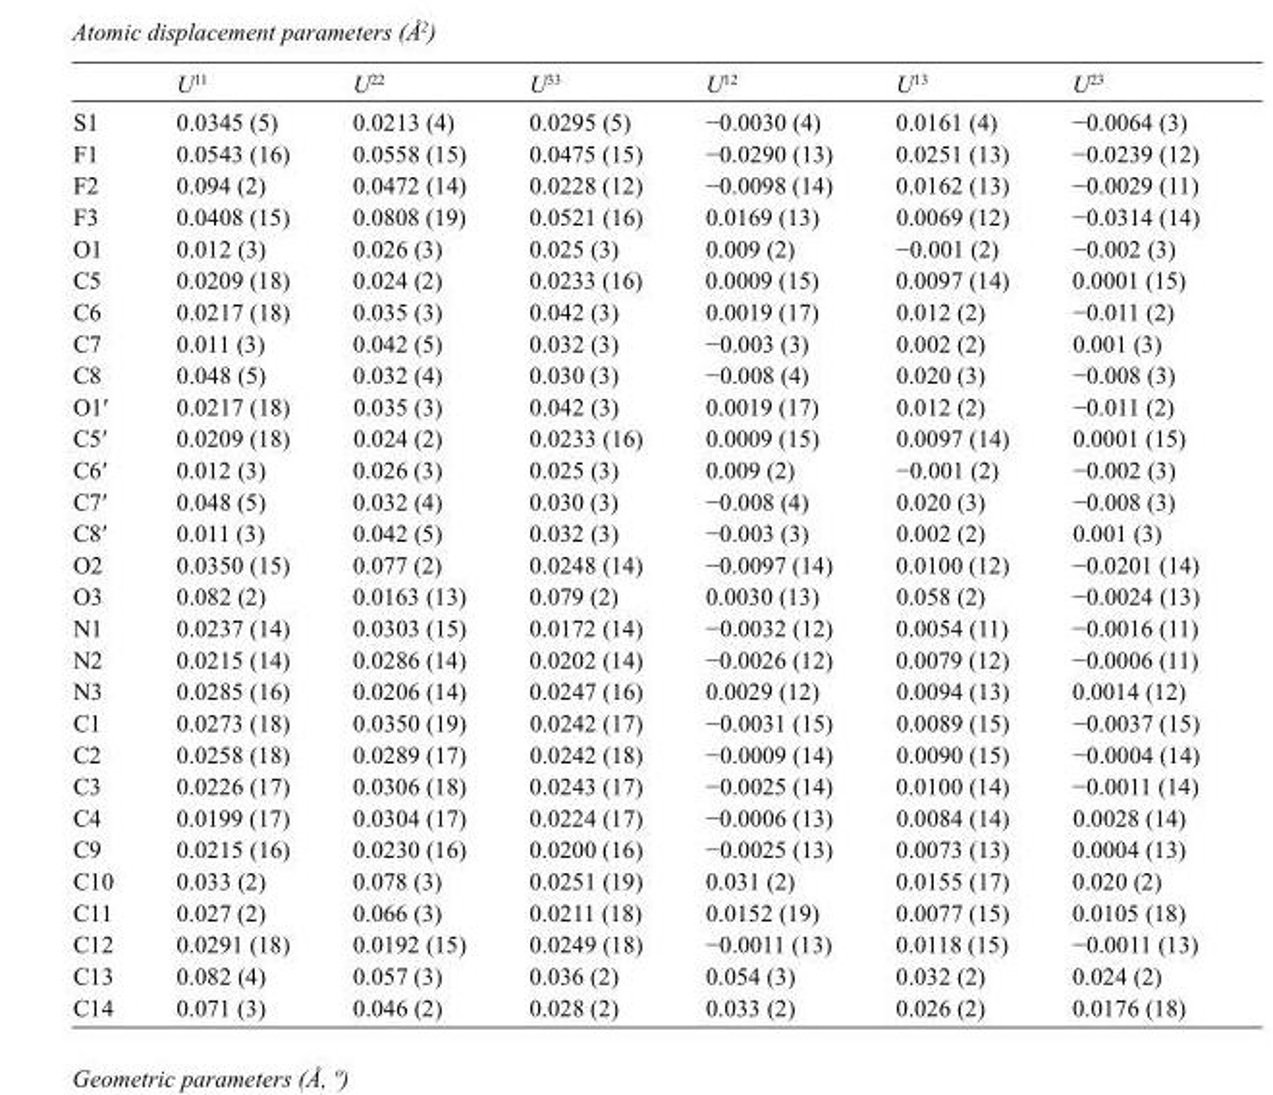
<table><thead><tr><td></td><td>U<sup>11</sup></td><td>U<sup>22</sup></td><td>U<sup>33</sup></td><td>U<sup>12</sup></td><td>U<sup>13</sup></td><td>U<sup>23</sup></td></tr></thead><tbody><tr><td>S1</td><td>0.0345 (5)</td><td>0.0213 (4)</td><td>0.0295 (5)</td><td>−0.0030 (4)</td><td>0.0161 (4)</td><td>−0.0064 (3)</td></tr><tr><td>F1</td><td>0.0543 (16)</td><td>0.0558 (15)</td><td>0.0475 (15)</td><td>−0.0290 (13)</td><td>0.0251 (13)</td><td>−0.0239 (12)</td></tr><tr><td>F2</td><td>0.094 (2)</td><td>0.0472 (14)</td><td>0.0228 (12)</td><td>−0.0098 (14)</td><td>0.0162 (13)</td><td>−0.0029 (11)</td></tr><tr><td>F3</td><td>0.0408 (15)</td><td>0.0808 (19)</td><td>0.0521 (16)</td><td>0.0169 (13)</td><td>0.0069 (12)</td><td>−0.0314 (14)</td></tr><tr><td>O1</td><td>0.012 (3)</td><td>0.026 (3)</td><td>0.025 (3)</td><td>0.009 (2)</td><td>−0.001 (2)</td><td>−0.002 (3)</td></tr><tr><td>C5</td><td>0.0209 (18)</td><td>0.024 (2)</td><td>0.0233 (16)</td><td>0.0009 (15)</td><td>0.0097 (14)</td><td>0.0001 (15)</td></tr><tr><td>C6</td><td>0.0217 (18)</td><td>0.035 (3)</td><td>0.042 (3)</td><td>0.0019 (17)</td><td>0.012 (2)</td><td>−0.011 (2)</td></tr><tr><td>C7</td><td>0.011 (3)</td><td>0.042 (5)</td><td>0.032 (3)</td><td>−0.003 (3)</td><td>0.002 (2)</td><td>0.001 (3)</td></tr><tr><td>C8</td><td>0.048 (5)</td><td>0.032 (4)</td><td>0.030 (3)</td><td>−0.008 (4)</td><td>0.020 (3)</td><td>−0.008 (3)</td></tr><tr><td>O1′</td><td>0.0217 (18)</td><td>0.035 (3)</td><td>0.042 (3)</td><td>0.0019 (17)</td><td>0.012 (2)</td><td>−0.011 (2)</td></tr><tr><td>C5′</td><td>0.0209 (18)</td><td>0.024 (2)</td><td>0.0233 (16)</td><td>0.0009 (15)</td><td>0.0097 (14)</td><td>0.0001 (15)</td></tr><tr><td>C6′</td><td>0.012 (3)</td><td>0.026 (3)</td><td>0.025 (3)</td><td>0.009 (2)</td><td>−0.001 (2)</td><td>−0.002 (3)</td></tr><tr><td>C7′</td><td>0.048 (5)</td><td>0.032 (4)</td><td>0.030 (3)</td><td>−0.008 (4)</td><td>0.020 (3)</td><td>−0.008 (3)</td></tr><tr><td>C8′</td><td>0.011 (3)</td><td>0.042 (5)</td><td>0.032 (3)</td><td>−0.003 (3)</td><td>0.002 (2)</td><td>0.001 (3)</td></tr><tr><td>O2</td><td>0.0350 (15)</td><td>0.077 (2)</td><td>0.0248 (14)</td><td>−0.0097 (14)</td><td>0.0100 (12)</td><td>−0.0201 (14)</td></tr><tr><td>O3</td><td>0.082 (2)</td><td>0.0163 (13)</td><td>0.079 (2)</td><td>0.0030 (13)</td><td>0.058 (2)</td><td>−0.0024 (13)</td></tr><tr><td>N1</td><td>0.0237 (14)</td><td>0.0303 (15)</td><td>0.0172 (14)</td><td>−0.0032 (12)</td><td>0.0054 (11)</td><td>−0.0016 (11)</td></tr><tr><td>N2</td><td>0.0215 (14)</td><td>0.0286 (14)</td><td>0.0202 (14)</td><td>−0.0026 (12)</td><td>0.0079 (12)</td><td>−0.0006 (11)</td></tr><tr><td>N3</td><td>0.0285 (16)</td><td>0.0206 (14)</td><td>0.0247 (16)</td><td>0.0029 (12)</td><td>0.0094 (13)</td><td>0.0014 (12)</td></tr><tr><td>C1</td><td>0.0273 (18)</td><td>0.0350 (19)</td><td>0.0242 (17)</td><td>−0.0031 (15)</td><td>0.0089 (15)</td><td>−0.0037 (15)</td></tr><tr><td>C2</td><td>0.0258 (18)</td><td>0.0289 (17)</td><td>0.0242 (18)</td><td>−0.0009 (14)</td><td>0.0090 (15)</td><td>−0.0004 (14)</td></tr><tr><td>C3</td><td>0.0226 (17)</td><td>0.0306 (18)</td><td>0.0243 (17)</td><td>−0.0025 (14)</td><td>0.0100 (14)</td><td>−0.0011 (14)</td></tr><tr><td>C4</td><td>0.0199 (17)</td><td>0.0304 (17)</td><td>0.0224 (17)</td><td>−0.0006 (13)</td><td>0.0084 (14)</td><td>0.0028 (14)</td></tr><tr><td>C9</td><td>0.0215 (16)</td><td>0.0230 (16)</td><td>0.0200 (16)</td><td>−0.0025 (13)</td><td>0.0073 (13)</td><td>0.0004 (13)</td></tr><tr><td>C10</td><td>0.033 (2)</td><td>0.078 (3)</td><td>0.0251 (19)</td><td>0.031 (2)</td><td>0.0155 (17)</td><td>0.020 (2)</td></tr><tr><td>C11</td><td>0.027 (2)</td><td>0.066 (3)</td><td>0.0211 (18)</td><td>0.0152 (19)</td><td>0.0077 (15)</td><td>0.0105 (18)</td></tr><tr><td>C12</td><td>0.0291 (18)</td><td>0.0192 (15)</td><td>0.0249 (18)</td><td>−0.0011 (13)</td><td>0.0118 (15)</td><td>−0.0011 (13)</td></tr><tr><td>C13</td><td>0.082 (4)</td><td>0.057 (3)</td><td>0.036 (2)</td><td>0.054 (3)</td><td>0.032 (2)</td><td>0.024 (2)</td></tr><tr><td>C14</td><td>0.071 (3)</td><td>0.046 (2)</td><td>0.028 (2)</td><td>0.033 (2)</td><td>0.026 (2)</td><td>0.0176 (18)</td></tr></tbody></table>